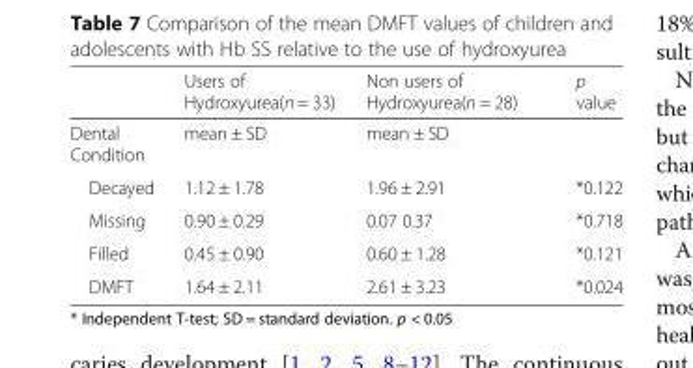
<table><thead><tr><td></td><td>Users of Hydroxyurea(n = 33)</td><td>Non users of Hydroxyurea(n = 28)</td><td>p value</td></tr></thead><tbody><tr><td>Dental Condition</td><td>mean ± SD</td><td>mean ± SD</td><td></td></tr><tr><td>Decayed</td><td>1.12 ± 1.78</td><td>1.96 ± 2.91</td><td>*0.122</td></tr><tr><td>Missing</td><td>0.90 ± 0.29</td><td>0.07 0.37</td><td>*0.718</td></tr><tr><td>Filled</td><td>0.45 ± 0.90</td><td>0.60 ± 1.28</td><td>*0.121</td></tr><tr><td>DMFT</td><td>1.64 ± 2.11</td><td>2.61 ± 3.23</td><td>*0.024</td></tr></tbody></table>